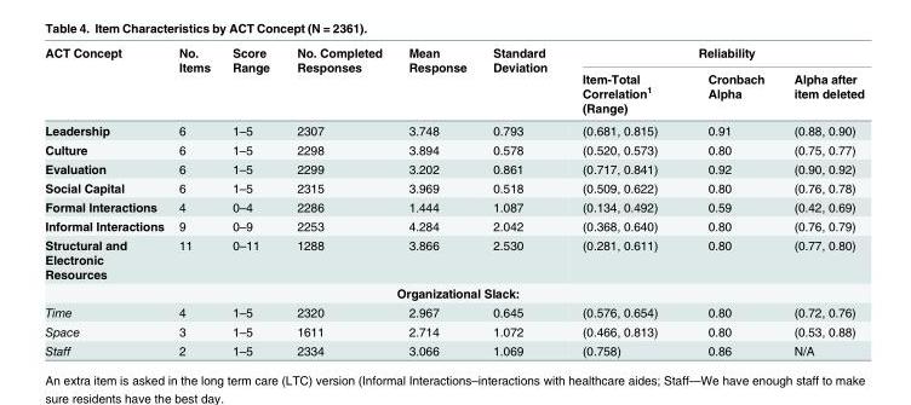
<table><thead><tr><td rowspan="2">ACT Concept</td><td rowspan="2">No. Items</td><td rowspan="2">Score Range</td><td rowspan="2">No. Completed Responses</td><td rowspan="2">Mean Response</td><td rowspan="2">Standard Deviation</td><td colspan="3">Reliability</td></tr><tr><td>Item-Total Correlation<sup>1</sup> (Range)</td><td>Cronbach Alpha</td><td>Alpha after item deleted</td></tr></thead><tbody><tr><td>Leadership</td><td>6</td><td>1–5</td><td>2307</td><td>3.748</td><td>0.793</td><td>(0.681, 0.815)</td><td>0.91</td><td>(0.88, 0.90)</td></tr><tr><td>Culture</td><td>6</td><td>1–5</td><td>2298</td><td>3.894</td><td>0.578</td><td>(0.520, 0.573)</td><td>0.80</td><td>(0.75, 0.77)</td></tr><tr><td>Evaluation</td><td>6</td><td>1–5</td><td>2299</td><td>3.202</td><td>0.861</td><td>(0.717, 0.841)</td><td>0.92</td><td>(0.90, 0.92)</td></tr><tr><td>Social Capital</td><td>6</td><td>1–5</td><td>2315</td><td>3.969</td><td>0.518</td><td>(0.509, 0.622)</td><td>0.80</td><td>(0.76, 0.78)</td></tr><tr><td>Formal Interactions</td><td>4</td><td>0–4</td><td>2286</td><td>1.444</td><td>1.087</td><td>(0.134, 0.492)</td><td>0.59</td><td>(0.42, 0.69)</td></tr><tr><td>Informal Interactions</td><td>9</td><td>0–9</td><td>2253</td><td>4.284</td><td>2.042</td><td>(0.368, 0.640)</td><td>0.80</td><td>(0.76, 0.79)</td></tr><tr><td>Structural and Electronic Resources</td><td>11</td><td>0–11</td><td>1288</td><td>3.866</td><td>2.530</td><td>(0.281, 0.611)</td><td>0.80</td><td>(0.77, 0.80)</td></tr><tr><td colspan="9">Organizational Slack:</td></tr><tr><td>Time</td><td>4</td><td>1–5</td><td>2320</td><td>2.967</td><td>0.645</td><td>(0.576, 0.654)</td><td>0.80</td><td>(0.72, 0.76)</td></tr><tr><td>Space</td><td>3</td><td>1–5</td><td>1611</td><td>2.714</td><td>1.072</td><td>(0.466, 0.813)</td><td>0.80</td><td>(0.53, 0.88)</td></tr><tr><td>Staff</td><td>2</td><td>1–5</td><td>2334</td><td>3.066</td><td>1.069</td><td>(0.758)</td><td>0.86</td><td>N/A</td></tr></tbody></table>